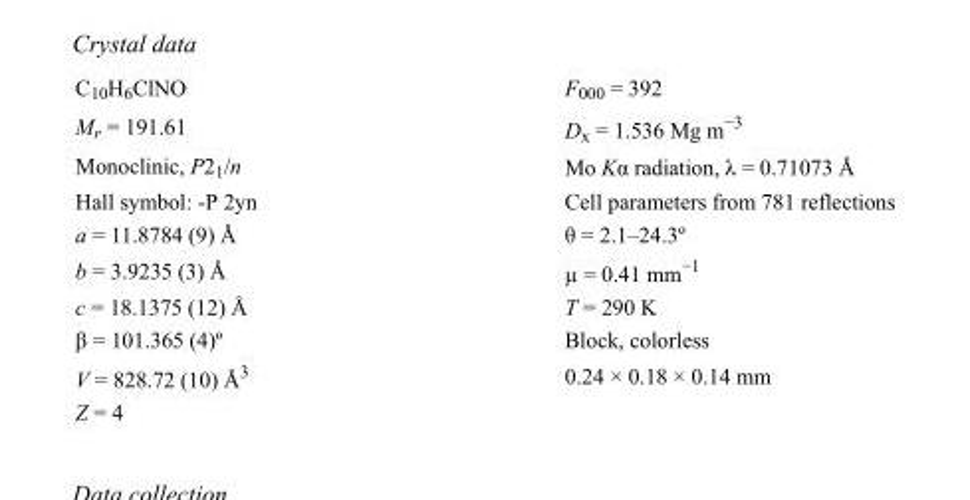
<table><tbody><tr><td>C<sub>10</sub>H<sub>6</sub>ClNO</td><td>F000 = 392</td></tr><tr><td>M<sub>r</sub> = 191.61</td><td>D<sub>x</sub> = 1.536 Mg m<sup>−3</sup></td></tr><tr><td>Monoclinic, P2<sub>1</sub>/n</td><td>Mo Kα radiation, λ = 0.71073 Å</td></tr><tr><td>Hall symbol: -P 2yn</td><td>Cell parameters from 781 reflections</td></tr><tr><td>a = 11.8784 (9) Å</td><td>θ = 2.1–24.3º</td></tr><tr><td>b = 3.9235 (3) Å</td><td>µ = 0.41 mm<sup>−1</sup></td></tr><tr><td>c = 18.1375 (12) Å</td><td>T = 290 K</td></tr><tr><td>β = 101.365 (4)º</td><td>Block, colorless</td></tr><tr><td>V = 828.72 (10) Å<sup>3</sup></td><td>0.24 × 0.18 × 0.14 mm</td></tr><tr><td>Z = 4</td><td></td></tr></tbody></table>